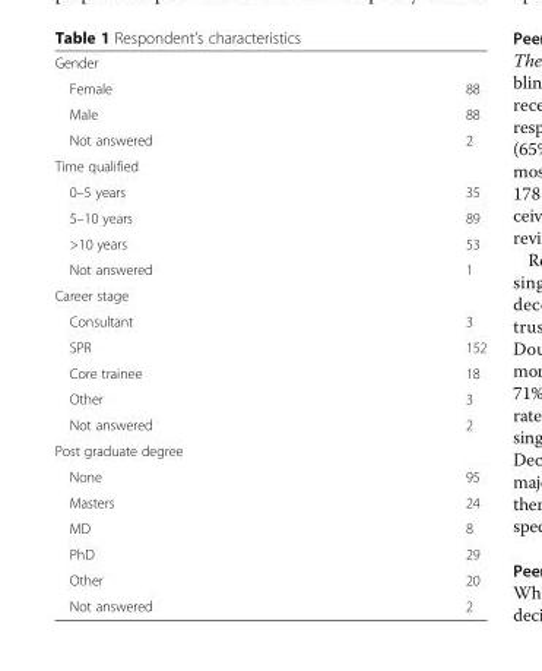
<table><tbody><tr><td colspan="2">Gender</td></tr><tr><td>Female</td><td>88</td></tr><tr><td>Male</td><td>88</td></tr><tr><td>Not answered</td><td>2</td></tr><tr><td colspan="2">Time qualified</td></tr><tr><td>0–5 years</td><td>35</td></tr><tr><td>5–10 years</td><td>89</td></tr><tr><td>&gt;10 years</td><td>53</td></tr><tr><td>Not answered</td><td>1</td></tr><tr><td colspan="2">Career stage</td></tr><tr><td>Consultant</td><td>3</td></tr><tr><td>SPR</td><td>152</td></tr><tr><td>Core trainee</td><td>18</td></tr><tr><td>Other</td><td>3</td></tr><tr><td>Not answered</td><td>2</td></tr><tr><td colspan="2">Post graduate degree</td></tr><tr><td>None</td><td>95</td></tr><tr><td>Masters</td><td>24</td></tr><tr><td>MD</td><td>8</td></tr><tr><td>PhD</td><td>29</td></tr><tr><td>Other</td><td>20</td></tr><tr><td>Not answered</td><td>2</td></tr></tbody></table>